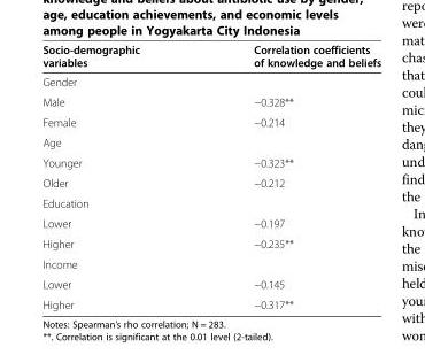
<table><thead><tr><td>Socio-demographic variables</td><td>Correlation coefficients of knowledge and beliefs</td></tr></thead><tbody><tr><td colspan="2">Gender</td></tr><tr><td>Male</td><td>−0.328**</td></tr><tr><td>Female</td><td>−0.214</td></tr><tr><td colspan="2">Age</td></tr><tr><td>Younger</td><td>−0.323**</td></tr><tr><td>Older</td><td>−0.212</td></tr><tr><td colspan="2">Education</td></tr><tr><td>Lower</td><td>−0.197</td></tr><tr><td>Higher</td><td>−0.235**</td></tr><tr><td colspan="2">Income</td></tr><tr><td>Lower</td><td>−0.145</td></tr><tr><td>Higher</td><td>−0.317**</td></tr></tbody></table>